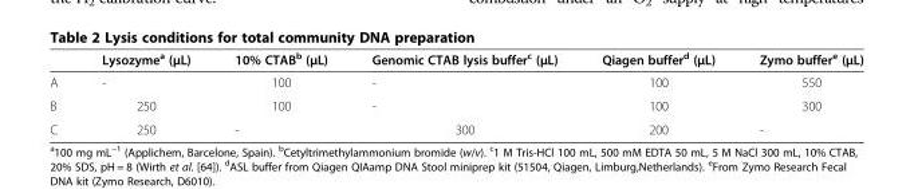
<table><thead><tr><td></td><td>Lysozyme<sup>a</sup> (μL)</td><td>10% CTAB<sup>b</sup> (μL)</td><td>Genomic CTAB lysis buffer<sup>c</sup> (μL)</td><td>Qiagen buffer<sup>d</sup> (μL)</td><td>Zymo buffer<sup>e</sup> (μL)</td></tr></thead><tbody><tr><td>A</td><td>-</td><td>100</td><td>-</td><td>100</td><td>550</td></tr><tr><td>B</td><td>250</td><td>100</td><td>-</td><td>100</td><td>300</td></tr><tr><td>C</td><td>250</td><td>-</td><td>300</td><td>200</td><td>-</td></tr></tbody></table>